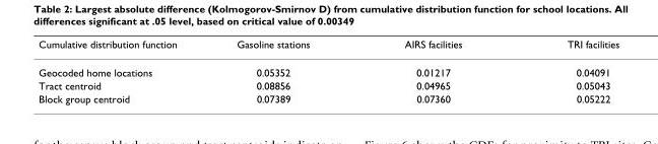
<table><thead><tr><td>Cumulative distribution function</td><td>Gasoline stations</td><td>AIRS facilities</td><td>TRI facilities</td></tr></thead><tbody><tr><td>Geocoded home locations</td><td>0.05352</td><td>0.01217</td><td>0.04091</td></tr><tr><td>Tract centroid</td><td>0.08856</td><td>0.04965</td><td>0.05043</td></tr><tr><td>Block group centroid</td><td>0.07389</td><td>0.07360</td><td>0.05222</td></tr></tbody></table>